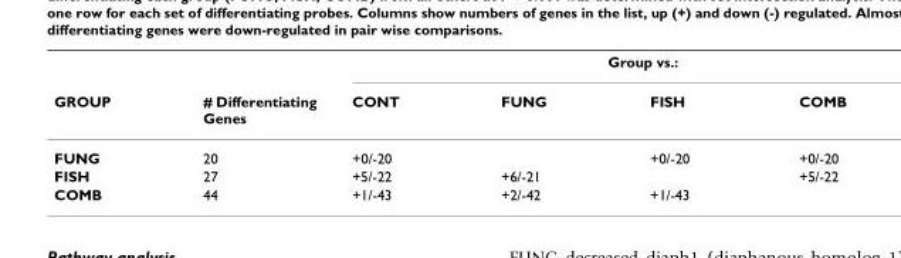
<table><thead><tr><td rowspan="2">GROUP</td><td rowspan="2"># Differentiating Genes</td><td colspan="4">Group vs.:</td></tr><tr><td>CONT</td><td>FUNG</td><td>FISH</td><td>COMB</td></tr></thead><tbody><tr><td>FUNG</td><td>20</td><td>+0/-20</td><td></td><td>+0/-20</td><td>+0/-20</td></tr><tr><td>FISH</td><td>27</td><td>+5/-22</td><td>+6/-21</td><td></td><td>+5/-22</td></tr><tr><td>COMB</td><td>44</td><td>+1/-43</td><td>+2/-42</td><td>+1/-43</td><td></td></tr></tbody></table>